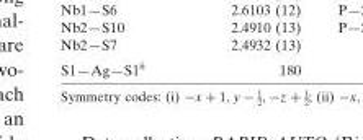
<table><tbody><tr><td>S1—Ag—S1<sup>ii</sup></td><td>180</td></tr></tbody></table>